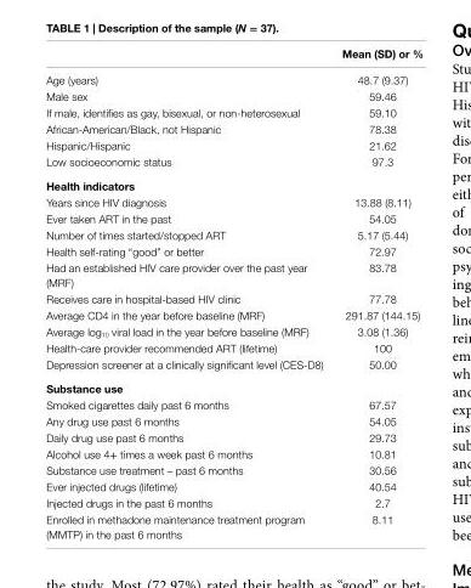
<table><thead><tr><td></td><td>Mean (sD) or %</td></tr></thead><tbody><tr><td>Age (years)</td><td>48.7 (9.37)</td></tr><tr><td>Male sex</td><td>59.46</td></tr><tr><td>If male, identifies as gay, bisexual, or non-heterosexual</td><td>59.10</td></tr><tr><td>African-American/Black, not Hispanic</td><td>78.38</td></tr><tr><td>Hispanic/Hispanic</td><td>21.62</td></tr><tr><td>Low socioeconomic status</td><td>97.3</td></tr><tr><td colspan="2">health indicators</td></tr><tr><td>Years since HIV diagnosis</td><td>13.88 (8.11)</td></tr><tr><td>Ever taken ART in the past</td><td>54.05</td></tr><tr><td>Number of times started/stopped ART</td><td>5.17 (5.44)</td></tr><tr><td>Health self-rating “good” or better</td><td>72.97</td></tr><tr><td>Had an established HIV care provider over the past year (MRF)</td><td>83.78</td></tr><tr><td>Receives care in hospital-based HIV clinic</td><td>77.78</td></tr><tr><td>Average CD4 in the year before baseline (MRF)</td><td>291.87 (144.15)</td></tr><tr><td>Average log<sub>10</sub> viral load in the year before baseline (MRF)</td><td>3.08 (1.36)</td></tr><tr><td>Health-care provider recommended ART (lifetime)</td><td>100</td></tr><tr><td>Depression screener at a clinically significant level (CES-D8)</td><td>50.00</td></tr><tr><td colspan="2">substance use</td></tr><tr><td>Smoked cigarettes daily past 6 months</td><td>67.57</td></tr><tr><td>Any drug use past 6 months</td><td>54.05</td></tr><tr><td>Daily drug use past 6 months</td><td>29.73</td></tr><tr><td>Alcohol use 4+ times a week past 6 months</td><td>10.81</td></tr><tr><td>Substance use treatment – past 6 months</td><td>30.56</td></tr><tr><td>Ever injected drugs (lifetime)</td><td>40.54</td></tr><tr><td>Injected drugs in the past 6 months</td><td>2.7</td></tr><tr><td>Enrolled in methadone maintenance treatment program (MMTP) in the past 6 months</td><td>8.11</td></tr></tbody></table>